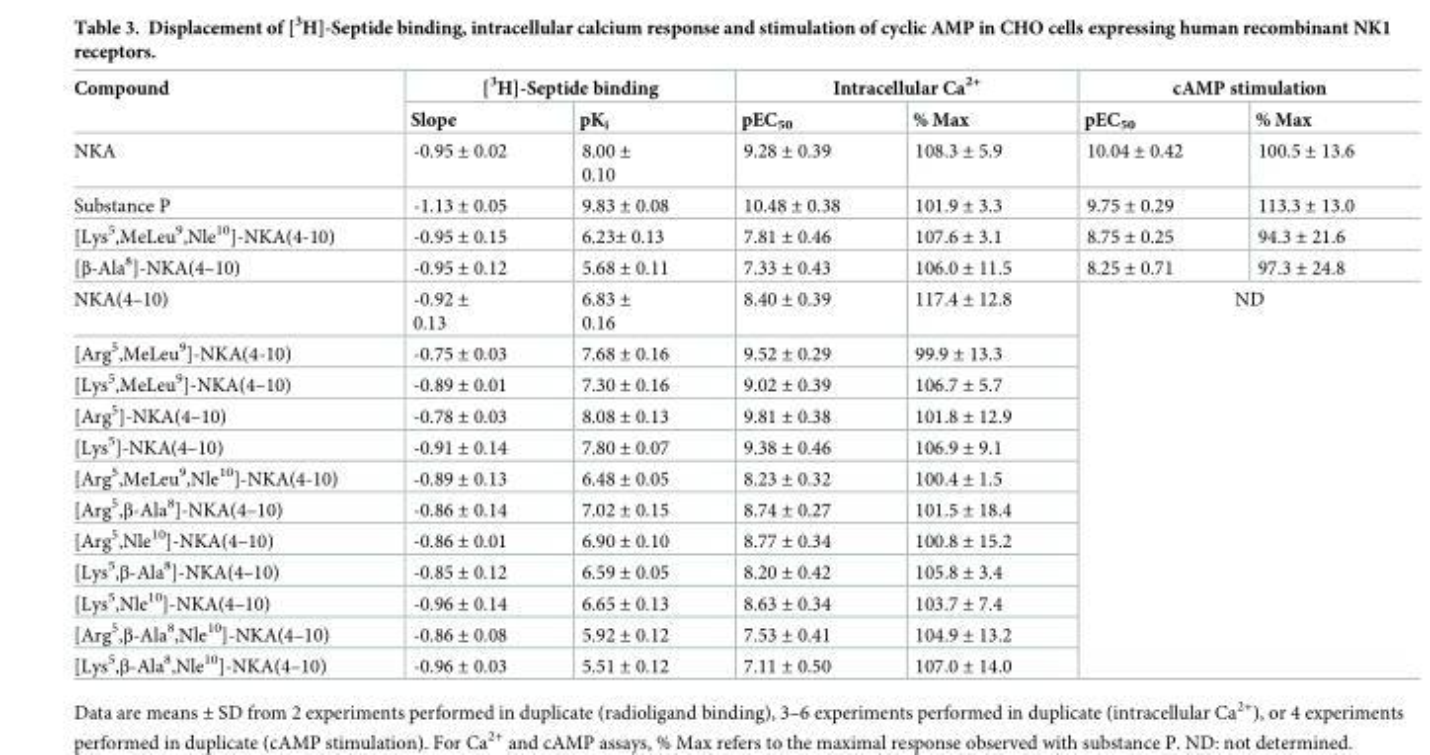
<table><thead><tr><td rowspan="2">Compound</td><td colspan="2">[<sup>3</sup>H]-Septide binding</td><td colspan="2">Intracellular Ca<sup>2+</sup></td><td colspan="2">cAMP stimulation</td></tr><tr><td>Slope</td><td>pK<sub>i</sub></td><td>pEC<sub>50</sub></td><td>% Max</td><td>pEC<sub>50</sub></td><td>% Max</td></tr></thead><tbody><tr><td>NKA</td><td>-0.95 ± 0.02</td><td>8.00 ± 0.10</td><td>9.28 ± 0.39</td><td>108.3 ± 5.9</td><td>10.04 ± 0.42</td><td>100.5 ± 13.6</td></tr><tr><td>Substance P</td><td>-1.13 ± 0.05</td><td>9.83 ± 0.08</td><td>10.48 ± 0.38</td><td>101.9 ± 3.3</td><td>9.75 ± 0.29</td><td>113.3 ± 13.0</td></tr><tr><td>[Lys<sup>5</sup>,MeLeu<sup>9</sup>,Nle<sup>10</sup>]-NKA(4-10)</td><td>-0.95 ± 0.15</td><td>6.23± 0.13</td><td>7.81 ± 0.46</td><td>107.6 ± 3.1</td><td>8.75 ± 0.25</td><td>94.3 ± 21.6</td></tr><tr><td>[β-Ala<sup>8</sup>]-NKA(4–10)</td><td>-0.95 ± 0.12</td><td>5.68 ± 0.11</td><td>7.33 ± 0.43</td><td>106.0 ± 11.5</td><td>8.25 ± 0.71</td><td>97.3 ± 24.8</td></tr><tr><td>NKA(4–10)</td><td>-0.92 ± 0.13</td><td>6.83 ± 0.16</td><td>8.40 ± 0.39</td><td>117.4 ± 12.8</td><td rowspan="12" colspan="2">ND</td></tr><tr><td>[Arg<sup>5</sup>,MeLeu<sup>9</sup>]-NKA(4-10)</td><td>-0.75 ± 0.03</td><td>7.68 ± 0.16</td><td>9.52 ± 0.29</td><td>99.9 ± 13.3</td></tr><tr><td>[Lys<sup>5</sup>,MeLeu<sup>9</sup>]-NKA(4–10)</td><td>-0.89 ± 0.01</td><td>7.30 ± 0.16</td><td>9.02 ± 0.39</td><td>106.7 ± 5.7</td></tr><tr><td>[Arg<sup>5</sup>]-NKA(4–10)</td><td>-0.78 ± 0.03</td><td>8.08 ± 0.13</td><td>9.81 ± 0.38</td><td>101.8 ± 12.9</td></tr><tr><td>[Lys<sup>5</sup>]-NKA(4–10)</td><td>-0.91 ± 0.14</td><td>7.80 ± 0.07</td><td>9.38 ± 0.46</td><td>106.9 ± 9.1</td></tr><tr><td>[Arg<sup>5</sup>,MeLeu<sup>9</sup>,Nle<sup>10</sup>]-NKA(4-10)</td><td>-0.89 ± 0.13</td><td>6.48 ± 0.05</td><td>8.23 ± 0.32</td><td>100.4 ± 1.5</td></tr><tr><td>[Arg<sup>5</sup>,β-Ala<sup>8</sup>]-NKA(4–10)</td><td>-0.86 ± 0.14</td><td>7.02 ± 0.15</td><td>8.74 ± 0.27</td><td>101.5 ± 18.4</td></tr><tr><td>[Arg<sup>5</sup>,Nle<sup>10</sup>]-NKA(4–10)</td><td>-0.86 ± 0.01</td><td>6.90 ± 0.10</td><td>8.77 ± 0.34</td><td>100.8 ± 15.2</td></tr><tr><td>[Lys<sup>5</sup>,β-Ala<sup>8</sup>]-NKA(4–10)</td><td>-0.85 ± 0.12</td><td>6.59 ± 0.05</td><td>8.20 ± 0.42</td><td>105.8 ± 3.4</td></tr><tr><td>[Lys<sup>5</sup>,Nle<sup>10</sup>]-NKA(4–10)</td><td>-0.96 ± 0.14</td><td>6.65 ± 0.13</td><td>8.63 ± 0.34</td><td>103.7 ± 7.4</td></tr><tr><td>[Arg<sup>5</sup>,β-Ala<sup>8</sup>,Nle<sup>10</sup>]-NKA(4–10)</td><td>-0.86 ± 0.08</td><td>5.92 ± 0.12</td><td>7.53 ± 0.41</td><td>104.9 ± 13.2</td></tr><tr><td>[Lys<sup>5</sup>,β-Ala<sup>8</sup>,Nle<sup>10</sup>]-NKA(4–10)</td><td>-0.96 ± 0.03</td><td>5.51 ± 0.12</td><td>7.11 ± 0.50</td><td>107.0 ± 14.0</td></tr></tbody></table>